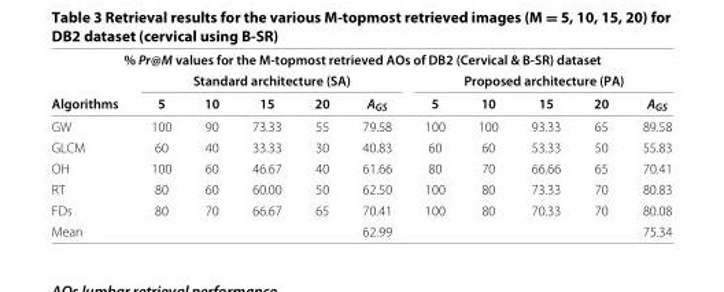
<table><thead><tr><td colspan="11">% Pr@M values for the M-topmost retrieved AOs of DB2 (Cervical &amp; B-SR) dataset</td></tr><tr><td rowspan="2">Algorithms</td><td colspan="5">Standard architecture (SA)</td><td colspan="5">Proposed architecture (PA)</td></tr><tr><td>5</td><td>10</td><td>15</td><td>20</td><td>A<sub>GS</sub></td><td>5</td><td>10</td><td>15</td><td>20</td><td>A<sub>GS</sub></td></tr></thead><tbody><tr><td>GW</td><td>100</td><td>90</td><td>73.33</td><td>55</td><td>79.58</td><td>100</td><td>100</td><td>93.33</td><td>65</td><td>89.58</td></tr><tr><td>GLCM</td><td>60</td><td>40</td><td>33.33</td><td>30</td><td>40.83</td><td>60</td><td>60</td><td>53.33</td><td>50</td><td>55.83</td></tr><tr><td>OH</td><td>100</td><td>60</td><td>46.67</td><td>40</td><td>61.66</td><td>80</td><td>70</td><td>66.66</td><td>65</td><td>70.41</td></tr><tr><td>RT</td><td>80</td><td>60</td><td>60.00</td><td>50</td><td>62.50</td><td>100</td><td>80</td><td>73.33</td><td>70</td><td>80.83</td></tr><tr><td>FDs</td><td>80</td><td>70</td><td>66.67</td><td>65</td><td>70.41</td><td>100</td><td>80</td><td>70.33</td><td>70</td><td>80.08</td></tr><tr><td>Mean</td><td></td><td></td><td></td><td></td><td>62.99</td><td></td><td></td><td></td><td></td><td>75.34</td></tr></tbody></table>